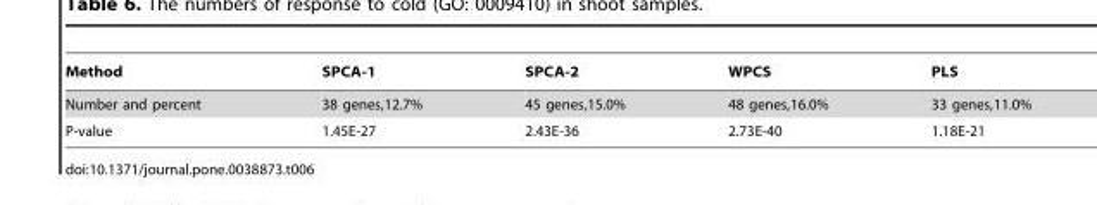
<table><thead><tr><td>Method</td><td>SPCA-1</td><td>SPCA-2</td><td>WPCS</td><td>PLS</td></tr></thead><tbody><tr><td>Number and percent</td><td>38 genes,12.7%</td><td>45 genes,15.0%</td><td>48 genes,16.0%</td><td>33 genes,11.0%</td></tr><tr><td>P-value</td><td>1.45E-27</td><td>2.43E-36</td><td>2.73E-40</td><td>1.18E-21</td></tr></tbody></table>